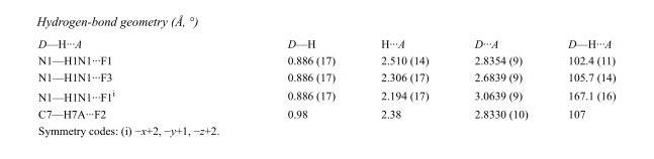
<table><tbody><tr><td>D—H···A</td><td>D—H</td><td>H···A</td><td>D···A</td><td>D—H···A</td></tr><tr><td>N1—H1N1···F1</td><td>0.886 (17)</td><td>2.510 (14)</td><td>2.8354 (9)</td><td>102.4 (11)</td></tr><tr><td>N1—H1N1···F3</td><td>0.886 (17)</td><td>2.306 (17)</td><td>2.6839 (9)</td><td>105.7 (14)</td></tr><tr><td>N1—H1N1···F1<sup>i</sup></td><td>0.886 (17)</td><td>2.194 (17)</td><td>3.0639 (9)</td><td>167.1 (16)</td></tr><tr><td>C7—H7A···F2</td><td>0.98</td><td>2.38</td><td>2.8330 (10)</td><td>107</td></tr></tbody></table>